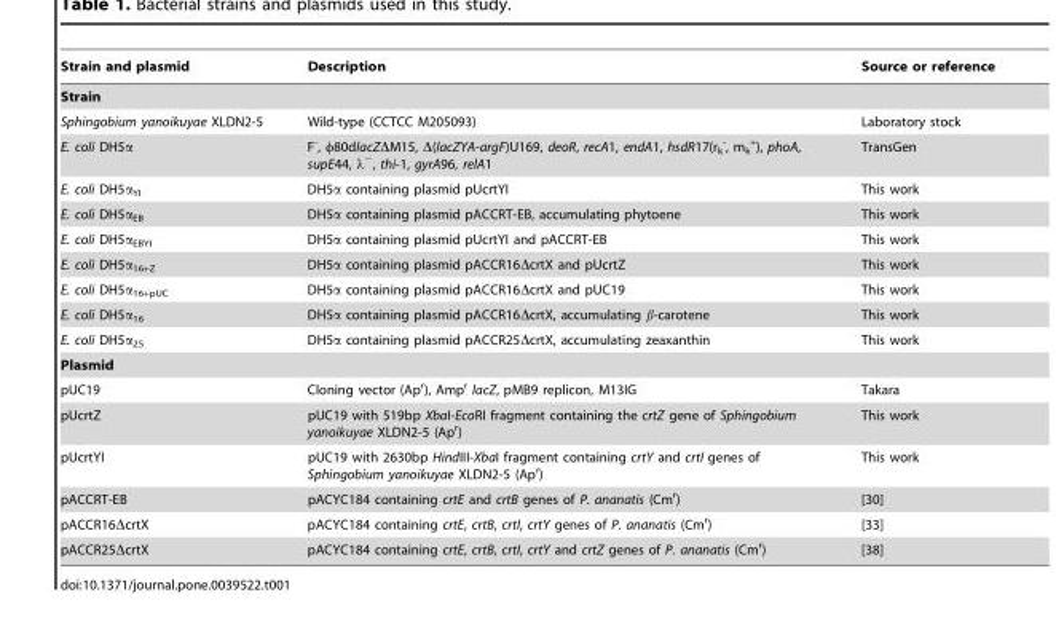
<table><thead><tr><td>Strain and plasmid</td><td>Description</td><td>Source or reference</td></tr></thead><tbody><tr><td colspan="3">Strain</td></tr><tr><td>Sphingobium yanoikuyae XLDN2-5</td><td>Wild-type (CCTCC M205093)</td><td>Laboratory stock</td></tr><tr><td>E. coli DH5α</td><td>F<sup>-</sup>, φ80dlacZΔM15, Δ(lacZYA-argF)U169, deoR, recA1, endA1, hsdR17(r<sub>k</sub> <sup>-</sup>, m<sub>k</sub> <sup>+</sup>), phoA, supE44, λ<sup>−</sup>, thi-1, gyrA96, relA1</td><td>TransGen</td></tr><tr><td>E. coli DH5α<sub>YI</sub></td><td>DH5α containing plasmid pUcrtYI</td><td>This work</td></tr><tr><td>E. coli DH5α<sub>EB</sub></td><td>DH5α containing plasmid pACCRT-EB, accumulating phytoene</td><td>This work</td></tr><tr><td>E. coli DH5α<sub>EBYI</sub></td><td>DH5α containing plasmid pUcrtYI and pACCRT-EB</td><td>This work</td></tr><tr><td>E. coli DH5α<sub>16+Z</sub></td><td>DH5α containing plasmid pACCR16ΔcrtX and pUcrtZ</td><td>This work</td></tr><tr><td>E. coli DH5α<sub>16+pUC</sub></td><td>DH5α containing plasmid pACCR16ΔcrtX and pUC19</td><td>This work</td></tr><tr><td>E. coli DH5α<sub>16</sub></td><td>DH5α containing plasmid pACCR16ΔcrtX, accumulating β-carotene</td><td>This work</td></tr><tr><td>E. coli DH5α<sub>25</sub></td><td>DH5α containing plasmid pACCR25ΔcrtX, accumulating zeaxanthin</td><td>This work</td></tr><tr><td colspan="3">Plasmid</td></tr><tr><td>pUC19</td><td>Cloning vector (Ap<sup>r</sup>), Amp<sup>r</sup> lacZ, pMB9 replicon, M13IG</td><td>Takara</td></tr><tr><td>pUcrtZ</td><td>pUC19 with 519bp XbaI-EcoRI fragment containing the crtZ gene of Sphingobium yanoikuyae XLDN2-5 (Ap<sup>r</sup>)</td><td>This work</td></tr><tr><td>pUcrtYI</td><td>pUC19 with 2630bp HindIII-XbaI fragment containing crtY and crtI genes of Sphingobium yanoikuyae XLDN2-5 (Ap<sup>r</sup>)</td><td>This work</td></tr><tr><td>pACCRT-EB</td><td>pACYC184 containing crtE and crtB genes of P. ananatis (Cm<sup>r</sup>)</td><td>[30]</td></tr><tr><td>pACCR16ΔcrtX</td><td>pACYC184 containing crtE, crtB, crtI, crtY genes of P. ananatis (Cm<sup>r</sup>)</td><td>[33]</td></tr><tr><td>pACCR25ΔcrtX</td><td>pACYC184 containing crtE, crtB, crtI, crtY and crtZ genes of P. ananatis (Cm<sup>r</sup>)</td><td>[38]</td></tr></tbody></table>